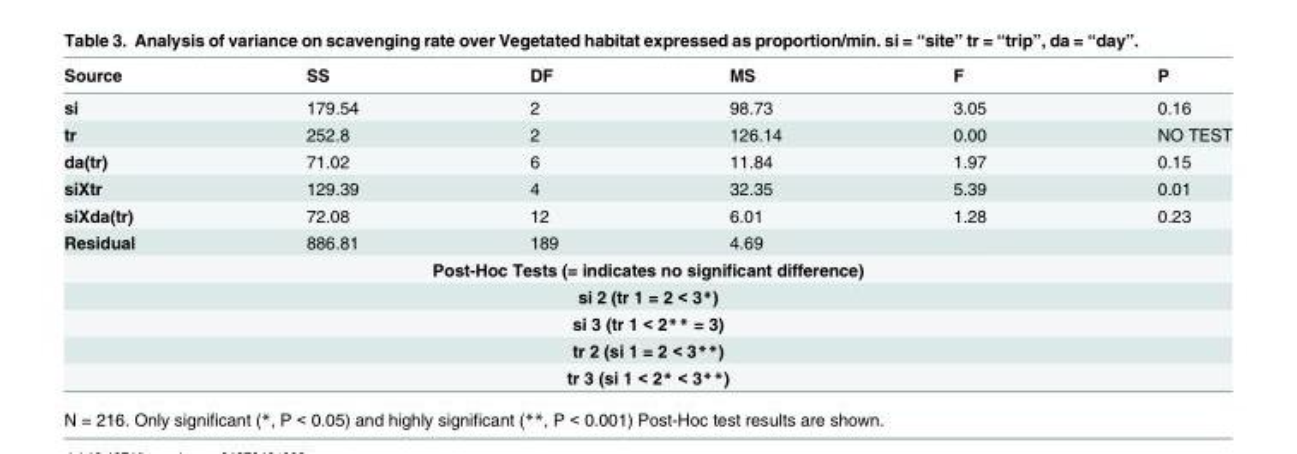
<table><thead><tr><td>Source</td><td>SS</td><td>DF</td><td>MS</td><td>F</td><td>P</td></tr></thead><tbody><tr><td>si</td><td>179.54</td><td>2</td><td>98.73</td><td>3.05</td><td>0.16</td></tr><tr><td>tr</td><td>252.8</td><td>2</td><td>126.14</td><td>0.00</td><td>NO TEST</td></tr><tr><td>da(tr)</td><td>71.02</td><td>6</td><td>11.84</td><td>1.97</td><td>0.15</td></tr><tr><td>siXtr</td><td>129.39</td><td>4</td><td>32.35</td><td>5.39</td><td>0.01</td></tr><tr><td>siXda(tr)</td><td>72.08</td><td>12</td><td>6.01</td><td>1.28</td><td>0.23</td></tr><tr><td>Residual</td><td>886.81</td><td>189</td><td>4.69</td><td></td><td></td></tr><tr><td colspan="6">Post-Hoc Tests (= indicates no significant difference)</td></tr><tr><td colspan="6">si 2 (tr 1 = 2 &lt; 3*)</td></tr><tr><td colspan="6">si 3 (tr 1 &lt; 2** = 3)</td></tr><tr><td colspan="6">tr 2 (si 1 = 2 &lt; 3**)</td></tr><tr><td colspan="6">tr 3 (si 1 &lt; 2* &lt; 3**)</td></tr></tbody></table>